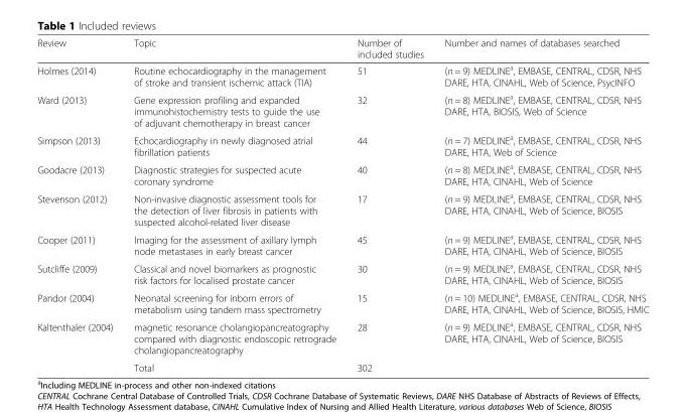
<table><thead><tr><td>Review</td><td>Topic</td><td>Number of included studies</td><td>Number and names of databases searched</td></tr></thead><tbody><tr><td>Holmes (2014)</td><td>Routine echocardiography in the management of stroke and transient ischemic attack (TIA)</td><td>51</td><td>(n = 9) MEDLINE<sup>a</sup>, EMBASE, CENTRAL, CDSR, NHS DARE, HTA, CINAHL, Web of Science, PsycINFO</td></tr><tr><td>Ward (2013)</td><td>Gene expression profiling and expanded immunohistochemistry tests to guide the use of adjuvant chemotherapy in breast cancer</td><td>32</td><td>(n = 8) MEDLINE<sup>a</sup>, EMBASE, CENTRAL, CDSR, NHS DARE, HTA, BIOSIS, Web of Science</td></tr><tr><td>Simpson (2013)</td><td>Echocardiography in newly diagnosed atrial fibrillation patients</td><td>44</td><td>(n = 7) MEDLINE<sup>a</sup>, EMBASE, CENTRAL, CDSR, NHS DARE, HTA, Web of Science</td></tr><tr><td>Goodacre (2013)</td><td>Diagnostic strategies for suspected acute coronary syndrome</td><td>40</td><td>(n = 8) MEDLINE<sup>a</sup>, EMBASE, CENTRAL, CDSR, NHS DARE, HTA, CINAHL, Web of Science</td></tr><tr><td>Stevenson (2012)</td><td>Non-invasive diagnostic assessment tools for the detection of liver fibrosis in patients with suspected alcohol-related liver disease</td><td>17</td><td>(n = 9) MEDLINE<sup>a</sup>, EMBASE, CENTRAL, CDSR, NHS DARE, HTA, CINAHL, Web of Science, BIOSIS</td></tr><tr><td>Cooper (2011)</td><td>Imaging for the assessment of axillary lymph node metastases in early breast cancer</td><td>45</td><td>(n = 9) MEDLINE<sup>a</sup>, EMBASE, CENTRAL, CDSR, NHS DARE, HTA, CINAHL, Web of Science, BIOSIS</td></tr><tr><td>Sutcliffe (2009)</td><td>Classical and novel biomarkers as prognostic risk factors for localised prostate cancer</td><td>30</td><td>(n = 9) MEDLINE<sup>a</sup>, EMBASE, CENTRAL, CDSR, NHS DARE, HTA, CINAHL, Web of Science, BIOSIS</td></tr><tr><td>Pandor (2004)</td><td>Neonatal screening for inborn errors of metabolism using tandem mass spectrometry</td><td>15</td><td>(n = 10) MEDLINE<sup>a</sup>, EMBASE, CENTRAL, CDSR, NHS DARE, HTA, CINAHL, Web of Science, BIOSIS, HMIC</td></tr><tr><td rowspan="2">Kaltenthaler (2004)</td><td>magnetic resonance cholangiopancreatography compared with diagnostic endoscopic retrograde cholangiopancreatography</td><td>28</td><td>(n = 9) MEDLINE<sup>a</sup>, EMBASE, CENTRAL, CDSR, NHS DARE, HTA, CINAHL, Web of Science, BIOSIS</td></tr><tr><td>Total</td><td>302</td><td></td></tr></tbody></table>